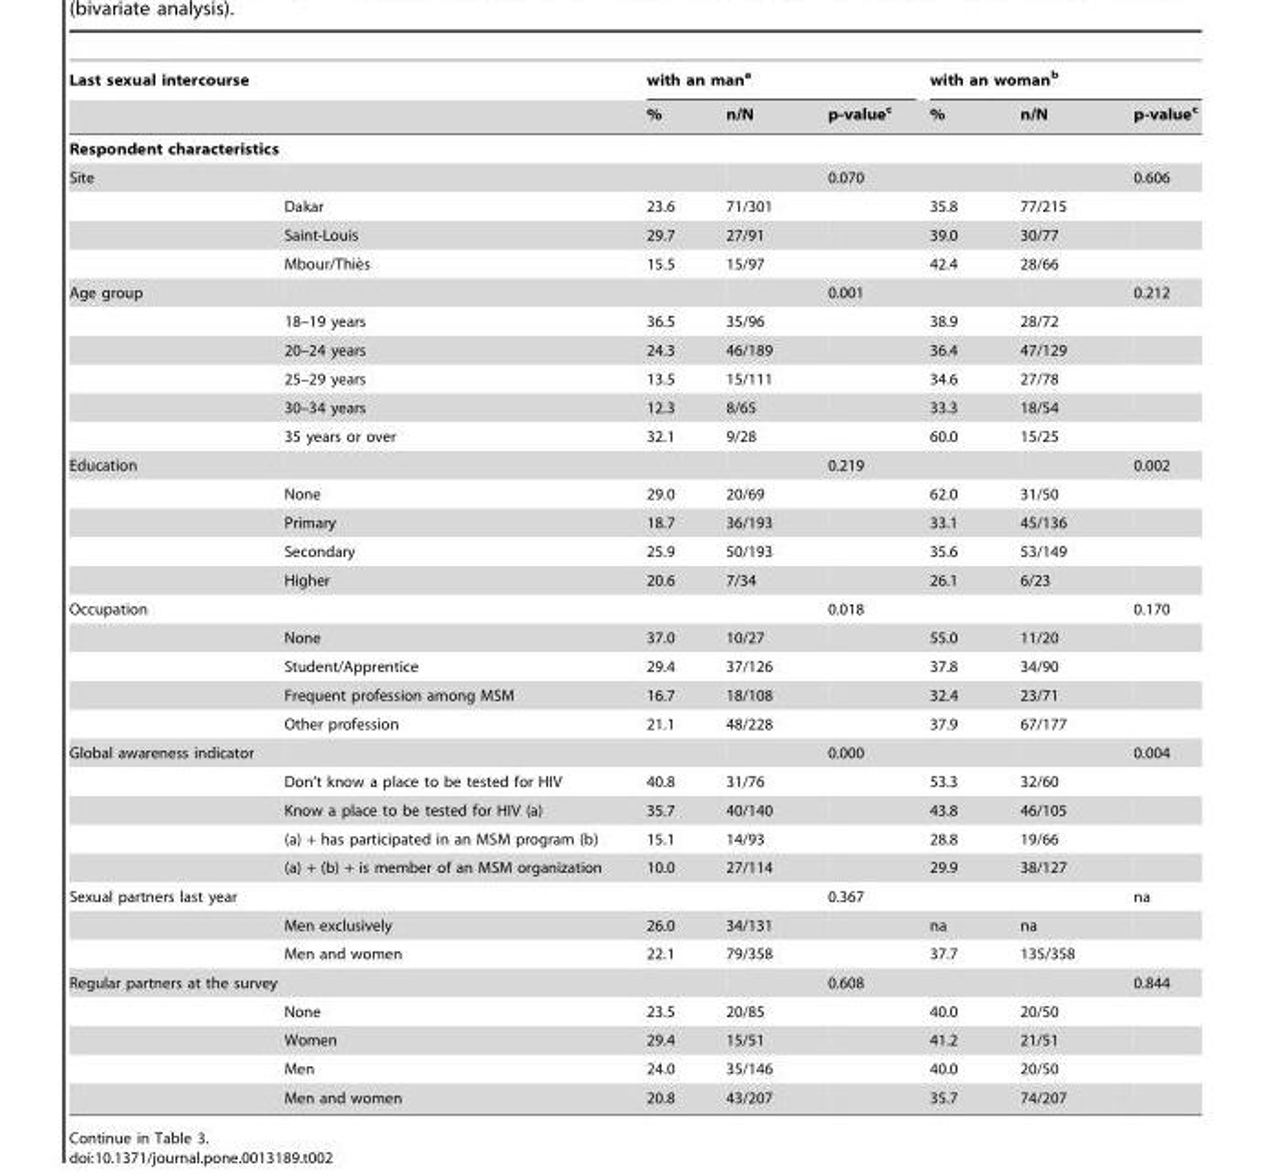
<table><thead><tr><td colspan="2">Last sexual intercourse</td><td colspan="3">with an man<sup>a</sup></td><td colspan="3">with an woman<sup>b</sup></td></tr><tr><td></td><td></td><td>%</td><td>n/N</td><td>p-value<sup>c</sup></td><td>%</td><td>n/N</td><td>p-value<sup>c</sup></td></tr></thead><tbody><tr><td colspan="8">Respondent characteristics</td></tr><tr><td rowspan="4">Site</td><td></td><td></td><td></td><td>0.070</td><td></td><td></td><td>0.606</td></tr><tr><td>Dakar</td><td>23.6</td><td>71/301</td><td></td><td>35.8</td><td>77/215</td><td></td></tr><tr><td>Saint-Louis</td><td>29.7</td><td>27/91</td><td></td><td>39.0</td><td>30/77</td><td></td></tr><tr><td>Mbour/Thie`s</td><td>15.5</td><td>15/97</td><td></td><td>42.4</td><td>28/66</td><td></td></tr><tr><td rowspan="6">Age group</td><td></td><td></td><td></td><td>0.001</td><td></td><td></td><td>0.212</td></tr><tr><td>18–19 years</td><td>36.5</td><td>35/96</td><td></td><td>38.9</td><td>28/72</td><td></td></tr><tr><td>20–24 years</td><td>24.3</td><td>46/189</td><td></td><td>36.4</td><td>47/129</td><td></td></tr><tr><td>25–29 years</td><td>13.5</td><td>15/111</td><td></td><td>34.6</td><td>27/78</td><td></td></tr><tr><td>30–34 years</td><td>12.3</td><td>8/65</td><td></td><td>33.3</td><td>18/54</td><td></td></tr><tr><td>35 years or over</td><td>32.1</td><td>9/28</td><td></td><td>60.0</td><td>15/25</td><td></td></tr><tr><td rowspan="5">Education</td><td></td><td></td><td></td><td>0.219</td><td></td><td></td><td>0.002</td></tr><tr><td>None</td><td>29.0</td><td>20/69</td><td></td><td>62.0</td><td>31/50</td><td></td></tr><tr><td>Primary</td><td>18.7</td><td>36/193</td><td></td><td>33.1</td><td>45/136</td><td></td></tr><tr><td>Secondary</td><td>25.9</td><td>50/193</td><td></td><td>35.6</td><td>53/149</td><td></td></tr><tr><td>Higher</td><td>20.6</td><td>7/34</td><td></td><td>26.1</td><td>6/23</td><td></td></tr><tr><td rowspan="5">Occupation</td><td></td><td></td><td></td><td>0.018</td><td></td><td></td><td>0.170</td></tr><tr><td>None</td><td>37.0</td><td>10/27</td><td></td><td>55.0</td><td>11/20</td><td></td></tr><tr><td>Student/Apprentice</td><td>29.4</td><td>37/126</td><td></td><td>37.8</td><td>34/90</td><td></td></tr><tr><td>Frequent profession among MSM</td><td>16.7</td><td>18/108</td><td></td><td>32.4</td><td>23/71</td><td></td></tr><tr><td>Other profession</td><td>21.1</td><td>48/228</td><td></td><td>37.9</td><td>67/177</td><td></td></tr><tr><td rowspan="5">Global awareness indicator</td><td></td><td></td><td></td><td>0.000</td><td></td><td></td><td>0.004</td></tr><tr><td>Don’t know a place to be tested for HIV</td><td>40.8</td><td>31/76</td><td></td><td>53.3</td><td>32/60</td><td></td></tr><tr><td>Know a place to be tested for HIV (a)</td><td>35.7</td><td>40/140</td><td></td><td>43.8</td><td>46/105</td><td></td></tr><tr><td>(a) + has participated in an MSM program (b)</td><td>15.1</td><td>14/93</td><td></td><td>28.8</td><td>19/66</td><td></td></tr><tr><td>(a) + (b) + is member of an MSM organization</td><td>10.0</td><td>27/114</td><td></td><td>29.9</td><td>38/127</td><td></td></tr><tr><td rowspan="3">Sexual partners last year</td><td></td><td></td><td></td><td>0.367</td><td></td><td></td><td>na</td></tr><tr><td>Men exclusively</td><td>26.0</td><td>34/131</td><td></td><td>na</td><td>na</td><td></td></tr><tr><td>Men and women</td><td>22.1</td><td>79/358</td><td></td><td>37.7</td><td>135/358</td><td></td></tr><tr><td rowspan="5">Regular partners at the survey</td><td></td><td></td><td></td><td>0.608</td><td></td><td></td><td>0.844</td></tr><tr><td>None</td><td>23.5</td><td>20/85</td><td></td><td>40.0</td><td>20/50</td><td></td></tr><tr><td>Women</td><td>29.4</td><td>15/51</td><td></td><td>41.2</td><td>21/51</td><td></td></tr><tr><td>Men</td><td>24.0</td><td>35/146</td><td></td><td>40.0</td><td>20/50</td><td></td></tr><tr><td>Men and women</td><td>20.8</td><td>43/207</td><td></td><td>35.7</td><td>74/207</td><td></td></tr></tbody></table>